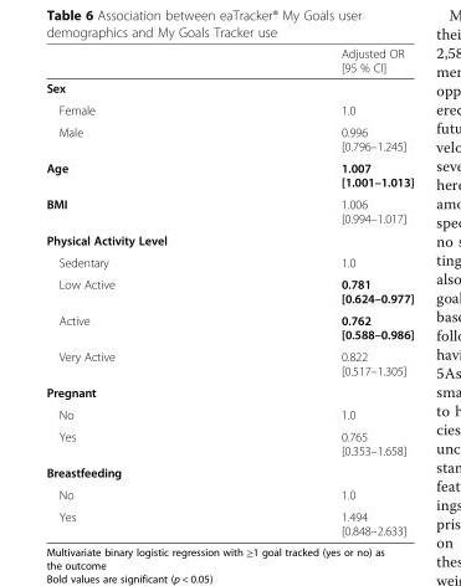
<table><thead><tr><td></td><td>Adjusted OR [95 % CI]</td></tr></thead><tbody><tr><td colspan="2">Sex</td></tr><tr><td>Female</td><td>1.0</td></tr><tr><td>Male</td><td>0.996 [0.796–1.245]</td></tr><tr><td>Age</td><td>1.007 [1.001–1.013]</td></tr><tr><td>BMI</td><td>1.006 [0.994–1.017]</td></tr><tr><td colspan="2">Physical Activity Level</td></tr><tr><td>Sedentary</td><td>1.0</td></tr><tr><td>Low Active</td><td>0.781 [0.624–0.977]</td></tr><tr><td>Active</td><td>0.762 [0.588–0.986]</td></tr><tr><td>Very Active</td><td>0.822 [0.517–1.305]</td></tr><tr><td colspan="2">Pregnant</td></tr><tr><td>No</td><td>1.0</td></tr><tr><td>Yes</td><td>0.765 [0.353–1.658]</td></tr><tr><td colspan="2">Breastfeeding</td></tr><tr><td>No</td><td>1.0</td></tr><tr><td>Yes</td><td>1.494 [0.848–2.633]</td></tr></tbody></table>